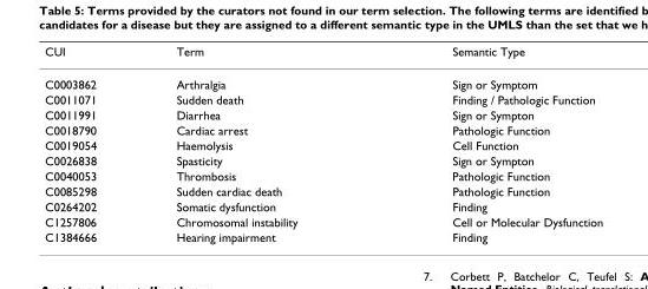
<table><thead><tr><td>CUI</td><td>Term</td><td>Semantic Type</td></tr></thead><tbody><tr><td>C0003862</td><td>Arthralgia</td><td>Sign or Symptom</td></tr><tr><td>C0011071</td><td>Sudden death</td><td>Finding / Pathologic Function</td></tr><tr><td>C0011991</td><td>Diarrhea</td><td>Sign or Sympton</td></tr><tr><td>C0018790</td><td>Cardiac arrest</td><td>Pathologic Function</td></tr><tr><td>C0019054</td><td>Haemolysis</td><td>Cell Function</td></tr><tr><td>C0026838</td><td>Spasticity</td><td>Sign or Sympton</td></tr><tr><td>C0040053</td><td>Thrombosis</td><td>Pathologic Function</td></tr><tr><td>C0085298</td><td>Sudden cardiac death</td><td>Pathologic Function</td></tr><tr><td>C0264202</td><td>Somatic dysfunction</td><td>Finding</td></tr><tr><td>C1257806</td><td>Chromosomal instability</td><td>Cell or Molecular Dysfunction</td></tr><tr><td>C1384666</td><td>Hearing impairment</td><td>Finding</td></tr></tbody></table>